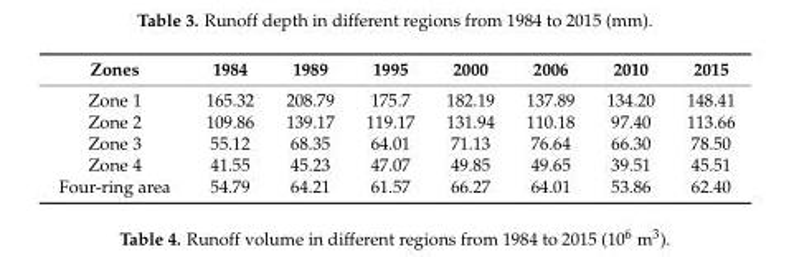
<table><thead><tr><td>Zones</td><td>1984</td><td>1989</td><td>1995</td><td>2000</td><td>2006</td><td>2010</td><td>2015</td></tr></thead><tbody><tr><td>Zone 1</td><td>165.32</td><td>208.79</td><td>175.7</td><td>182.19</td><td>137.89</td><td>134.20</td><td>148.41</td></tr><tr><td>Zone 2</td><td>109.86</td><td>139.17</td><td>119.17</td><td>131.94</td><td>110.18</td><td>97.40</td><td>113.66</td></tr><tr><td>Zone 3</td><td>55.12</td><td>68.35</td><td>64.01</td><td>71.13</td><td>76.64</td><td>66.30</td><td>78.50</td></tr><tr><td>Zone 4</td><td>41.55</td><td>45.23</td><td>47.07</td><td>49.85</td><td>49.65</td><td>39.51</td><td>45.51</td></tr><tr><td>Four-ring area</td><td>54.79</td><td>64.21</td><td>61.57</td><td>66.27</td><td>64.01</td><td>53.86</td><td>62.40</td></tr></tbody></table>